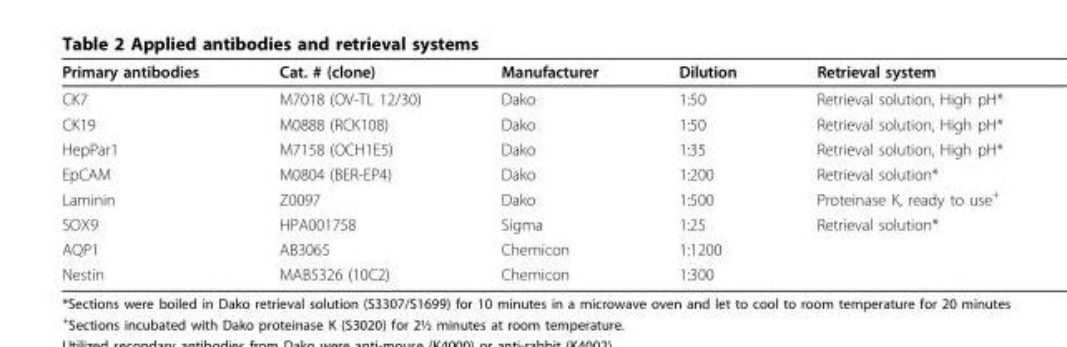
<table><thead><tr><td>Primary antibodies</td><td>Cat. # (clone)</td><td>Manufacturer</td><td>Dilution</td><td>Retrieval system</td></tr></thead><tbody><tr><td>CK7</td><td>M7018 (OV-TL 12/30)</td><td>Dako</td><td>1:50</td><td>Retrieval solution, High pH*</td></tr><tr><td>CK19</td><td>M0888 (RCK108)</td><td>Dako</td><td>1:50</td><td>Retrieval solution, High pH*</td></tr><tr><td>HepPar1</td><td>M7158 (OCH1E5)</td><td>Dako</td><td>1:35</td><td>Retrieval solution, High pH*</td></tr><tr><td>EpCAM</td><td>M0804 (BER-EP4)</td><td>Dako</td><td>1:200</td><td>Retrieval solution*</td></tr><tr><td>Laminin</td><td>Z0097</td><td>Dako</td><td>1:500</td><td>Proteinase K, ready to use<sup>+</sup></td></tr><tr><td>SOX9</td><td>HPA001758</td><td>Sigma</td><td>1:25</td><td>Retrieval solution*</td></tr><tr><td>AQP1</td><td>AB3065</td><td>Chemicon</td><td>1:1200</td><td></td></tr><tr><td>Nestin</td><td>MAB5326 (10C2)</td><td>Chemicon</td><td>1:300</td><td></td></tr></tbody></table>